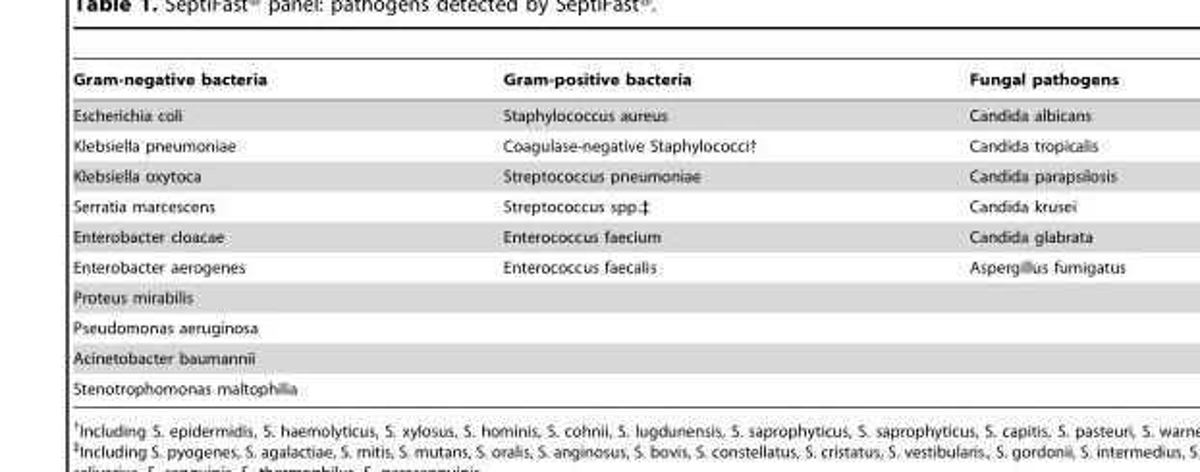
<table><thead><tr><td>Gram-negative bacteria</td><td>Gram-positive bacteria</td><td>Fungal pathogens</td></tr></thead><tbody><tr><td>Escherichia coli</td><td>Staphylococcus aureus</td><td>Candida albicans</td></tr><tr><td>Klebsiella pneumoniae</td><td>Coagulase-negative Staphylococci†</td><td>Candida tropicalis</td></tr><tr><td>Klebsiella oxytoca</td><td>Streptococcus pneumoniae</td><td>Candida parapsilosis</td></tr><tr><td>Serratia marcescens</td><td>Streptococcus spp.‡</td><td>Candida krusei</td></tr><tr><td>Enterobacter cloacae</td><td>Enterococcus faecium</td><td>Candida glabrata</td></tr><tr><td>Enterobacter aerogenes</td><td>Enterococcus faecalis</td><td>Aspergillus fumigatus</td></tr><tr><td colspan="3">Proteus mirabilis</td></tr><tr><td colspan="3">Pseudomonas aeruginosa</td></tr><tr><td colspan="3">Acinetobacter baumannii</td></tr><tr><td>Stenotrophomonas maltophilia</td><td></td><td></td></tr></tbody></table>